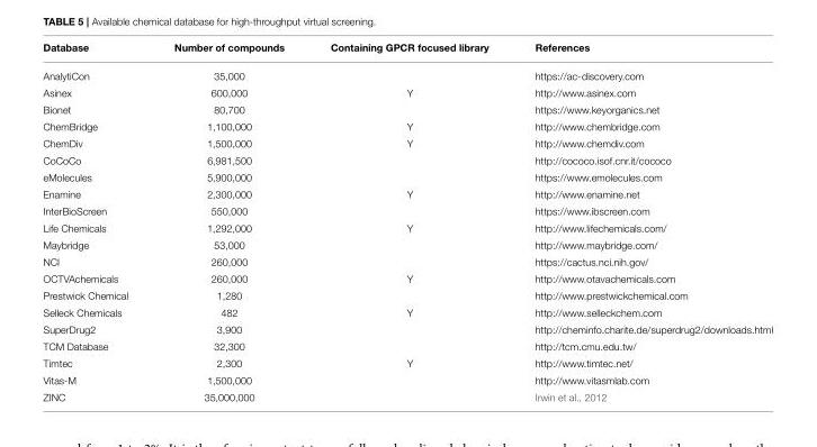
<table><thead><tr><td>Database</td><td>Number of compounds</td><td>Containing GPCR focused library</td><td>References</td></tr></thead><tbody><tr><td>AnalytiCon</td><td>35,000</td><td></td><td>https://ac-discovery.com</td></tr><tr><td>Asinex</td><td>600,000</td><td>Y</td><td>http://www.asinex.com</td></tr><tr><td>Bionet</td><td>80,700</td><td></td><td>https://www.keyorganics.net</td></tr><tr><td>ChemBridge</td><td>1,100,000</td><td>Y</td><td>http://www.chembridge.com</td></tr><tr><td>ChemDiv</td><td>1,500,000</td><td>Y</td><td>http://www.chemdiv.com</td></tr><tr><td>CoCoCo</td><td>6,981,500</td><td></td><td>http://cococo.isof.cnr.it/cococo</td></tr><tr><td>eMolecules</td><td>5,900,000</td><td></td><td>https://www.emolecules.com</td></tr><tr><td>Enamine</td><td>2,300,000</td><td>Y</td><td>http://www.enamine.net</td></tr><tr><td>InterBioScreen</td><td>550,000</td><td></td><td>https://www.ibscreen.com</td></tr><tr><td>Life Chemicals</td><td>1,292,000</td><td>Y</td><td>http://www.lifechemicals.com/</td></tr><tr><td>Maybridge</td><td>53,000</td><td></td><td>http://www.maybridge.com/</td></tr><tr><td>NCI</td><td>260,000</td><td></td><td>https://cactus.nci.nih.gov/</td></tr><tr><td>OCTVAchemicals</td><td>260,000</td><td>Y</td><td>http://www.otavachemicals.com</td></tr><tr><td>Prestwick Chemical</td><td>1,280</td><td></td><td>http://www.prestwickchemical.com</td></tr><tr><td>Selleck Chemicals</td><td>482</td><td>Y</td><td>http://www.selleckchem.com</td></tr><tr><td>SuperDrug2</td><td>3,900</td><td></td><td>http://cheminfo.charite.de/superdrug2/downloads.html</td></tr><tr><td>TCM Database</td><td>32,300</td><td></td><td>http://tcm.cmu.edu.tw/</td></tr><tr><td>Timtec</td><td>2,300</td><td>Y</td><td>http://www.timtec.net/</td></tr><tr><td>Vitas-M</td><td>1,500,000</td><td></td><td>http://www.vitasmlab.com</td></tr><tr><td>ZINC</td><td>35,000,000</td><td></td><td>Irwin et al., 2012</td></tr></tbody></table>